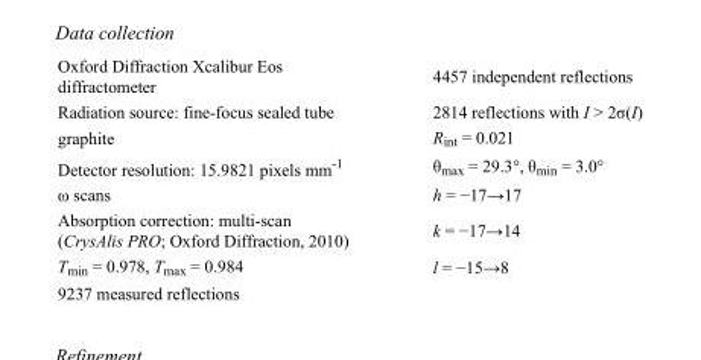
<table><tbody><tr><td>Oxford Diffraction Xcalibur Eos diffractometer</td><td>4457 independent reflections</td></tr><tr><td>Radiation source: fine-focus sealed tube</td><td>2814 reflections with I &gt; 2σ(I)</td></tr><tr><td>graphite</td><td>R<sub>int</sub> = 0.021</td></tr><tr><td>Detector resolution: 15.9821 pixels mm<sup>-1</sup></td><td>θ<sub>max</sub> = 29.3°, θ<sub>min</sub> = 3.0°</td></tr><tr><td>ω scans</td><td>h = −17→17</td></tr><tr><td>Absorption correction: multi-scan (CrysAlis PRO; Oxford Diffraction, 2010)</td><td>k = −17→14</td></tr><tr><td>T<sub>min</sub> = 0.978, T<sub>max</sub> = 0.984</td><td>l = −15→8</td></tr><tr><td>9237 measured reflections</td><td></td></tr></tbody></table>